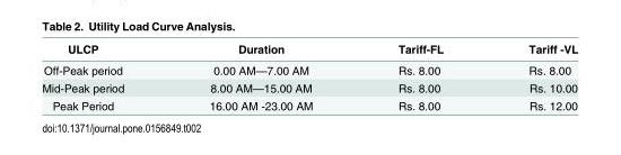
<table><thead><tr><td>ULCP</td><td>Duration</td><td>Tariff-FL</td><td>Tariff -VL</td></tr></thead><tbody><tr><td>Off-Peak period</td><td>0.00 AM—7.00 AM</td><td>Rs. 8.00</td><td>Rs. 8.00</td></tr><tr><td>Mid-Peak period</td><td>8.00 AM—15.00 AM</td><td>Rs. 8.00</td><td>Rs. 10.00</td></tr><tr><td>Peak Period</td><td>16.00 AM -23.00 AM</td><td>Rs. 8.00</td><td>Rs. 12.00</td></tr></tbody></table>